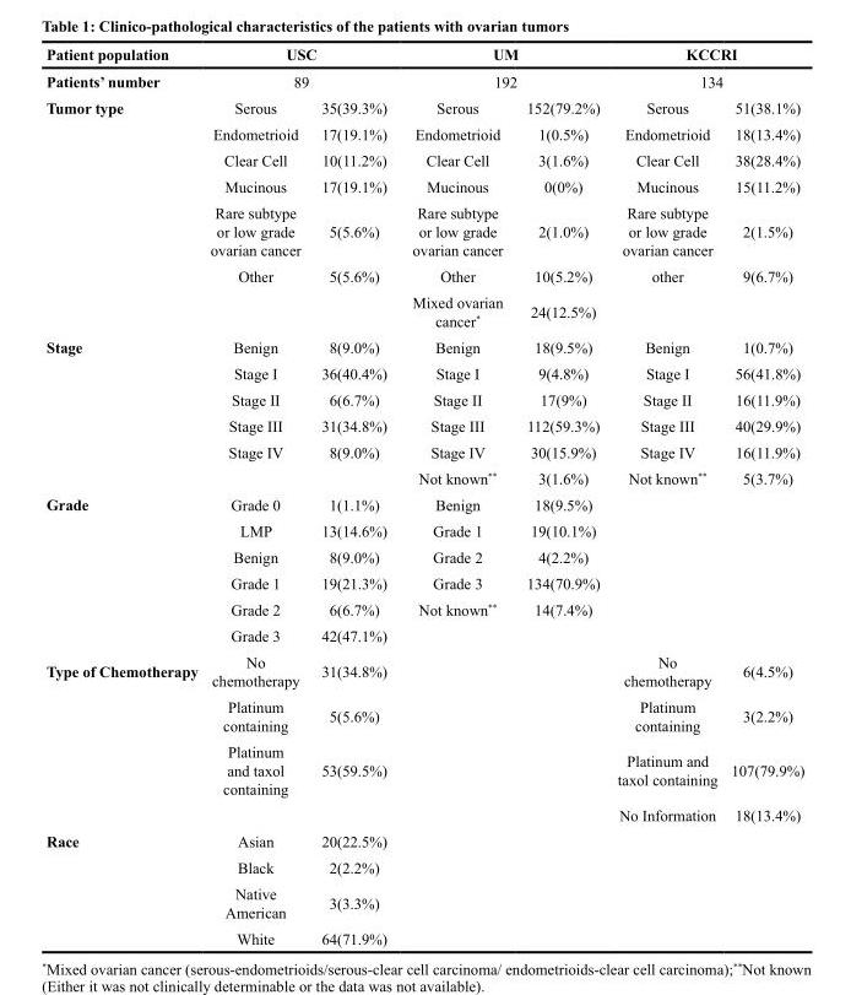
<table><thead><tr><td rowspan="3">Patient population Patients’ number Tumor type</td><td rowspan="2" colspan="2">USC 89</td><td rowspan="2" colspan="2">UM 192</td><td rowspan="2" colspan="2">KCCRI 134</td></tr><tr></tr><tr><td>Serous</td><td>35(39.3%)</td><td>Serous</td><td>152(79.2%)</td><td>Serous</td><td>51(38.1%)</td></tr></thead><tbody><tr><td></td><td>Endometrioid</td><td>17(19.1%)</td><td>Endometrioid</td><td>1(0.5%)</td><td>Endometrioid</td><td>18(13.4%)</td></tr><tr><td></td><td>Clear Cell</td><td>10(11.2%)</td><td>Clear Cell</td><td>3(1.6%)</td><td>Clear Cell</td><td>38(28.4%)</td></tr><tr><td></td><td>Mucinous</td><td>17(19.1%)</td><td>Mucinous</td><td>0(0%)</td><td>Mucinous</td><td>15(11.2%)</td></tr><tr><td></td><td>Rare subtype or low grade ovarian cancer</td><td>5(5.6%)</td><td>Rare subtype or low grade ovarian cancer</td><td>2(1.0%)</td><td>Rare subtype or low grade ovarian cancer</td><td>2(1.5%)</td></tr><tr><td></td><td>Other</td><td>5(5.6%)</td><td>Other</td><td>10(5.2%)</td><td>other</td><td>9(6.7%)</td></tr><tr><td></td><td></td><td></td><td>Mixed ovarian cancer*</td><td>24(12.5%)</td><td></td><td></td></tr><tr><td rowspan="6">Stage</td><td>Benign</td><td>8(9.0%)</td><td>Benign</td><td>18(9.5%)</td><td>Benign</td><td>1(0.7%)</td></tr><tr><td>Stage I</td><td>36(40.4%)</td><td>Stage I</td><td>9(4.8%)</td><td>Stage I</td><td>56(41.8%)</td></tr><tr><td>Stage II</td><td>6(6.7%)</td><td>Stage II</td><td>17(9%)</td><td>Stage II</td><td>16(11.9%)</td></tr><tr><td>Stage III</td><td>31(34.8%)</td><td>Stage III</td><td>112(59.3%)</td><td>Stage III</td><td>40(29.9%)</td></tr><tr><td>Stage IV</td><td>8(9.0%)</td><td>Stage IV</td><td>30(15.9%)</td><td>Stage IV</td><td>16(11.9%)</td></tr><tr><td></td><td></td><td>Not known**</td><td>3(1.6%)</td><td>Not known**</td><td>5(3.7%)</td></tr><tr><td rowspan="6">Grade</td><td>Grade 0</td><td>1(1.1%)</td><td>Benign</td><td>18(9.5%)</td><td></td><td></td></tr><tr><td>LMP</td><td>13(14.6%)</td><td>Grade 1</td><td>19(10.1%)</td><td></td><td></td></tr><tr><td>Benign</td><td>8(9.0%)</td><td>Grade 2</td><td>4(2.2%)</td><td></td><td></td></tr><tr><td>Grade 1</td><td>19(21.3%)</td><td>Grade 3</td><td>134(70.9%)</td><td></td><td></td></tr><tr><td>Grade 2</td><td>6(6.7%)</td><td>Not known**</td><td>14(7.4%)</td><td></td><td></td></tr><tr><td>Grade 3</td><td>42(47.1%)</td><td></td><td></td><td></td><td></td></tr><tr><td rowspan="4">Type of Chemotherapy</td><td>No chemotherapy</td><td>31(34.8%)</td><td></td><td></td><td>No chemotherapy</td><td>6(4.5%)</td></tr><tr><td>Platinum containing</td><td>5(5.6%)</td><td></td><td></td><td>Platinum containing</td><td>3(2.2%)</td></tr><tr><td>Platinum and taxol containing</td><td>53(59.5%)</td><td></td><td></td><td>Platinum and taxol containing</td><td>107(79.9%)</td></tr><tr><td></td><td></td><td></td><td></td><td>No Information</td><td>18(13.4%)</td></tr><tr><td rowspan="4">Race</td><td>Asian</td><td>20(22.5%)</td><td></td><td></td><td></td><td></td></tr><tr><td>Black</td><td>2(2.2%)</td><td></td><td></td><td></td><td></td></tr><tr><td>Native American</td><td>3(3.3%)</td><td></td><td></td><td></td><td></td></tr><tr><td>White</td><td>64(71.9%)</td><td></td><td></td><td></td><td></td></tr></tbody></table>